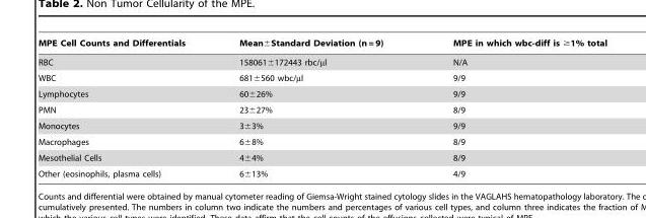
<table><thead><tr><td>MPE Cell Counts and Differentials</td><td>Mean±Standard Deviation (n = 9)</td><td>MPE in which wbc-diff is ≥1% total</td></tr></thead><tbody><tr><td>RBC</td><td>158061±172443 rbc/µl</td><td>N/A</td></tr><tr><td>WBC</td><td>681±560 wbc/µl</td><td>9/9</td></tr><tr><td>Lymphocytes</td><td>60±26%</td><td>9/9</td></tr><tr><td>PMN</td><td>23±27%</td><td>8/9</td></tr><tr><td>Monocytes</td><td>3±3%</td><td>9/9</td></tr><tr><td>Macrophages</td><td>6±8%</td><td>8/9</td></tr><tr><td>Mesothelial Cells</td><td>4±4%</td><td>8/9</td></tr><tr><td>Other (eosinophils, plasma cells)</td><td>6±13%</td><td>4/9</td></tr></tbody></table>